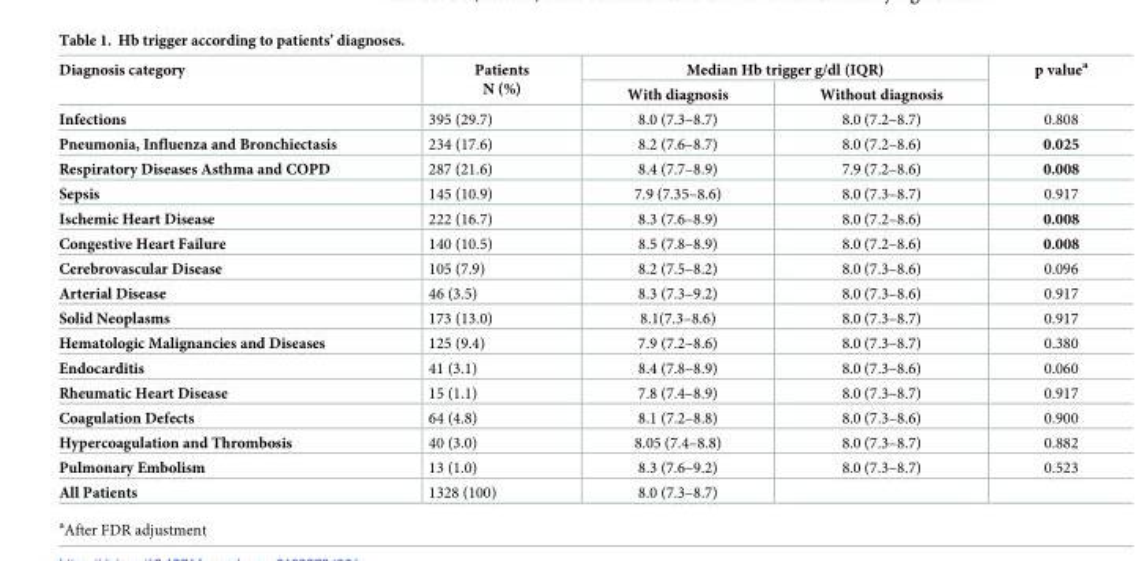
<table><thead><tr><td rowspan="2">Diagnosis category</td><td rowspan="2">Patients N (%)</td><td colspan="2">Median Hb trigger g/dl (IQR)</td><td rowspan="2">p value<sup>a</sup></td></tr><tr><td>With diagnosis</td><td>Without diagnosis</td></tr></thead><tbody><tr><td>Infections</td><td>395 (29.7)</td><td>8.0 (7.3–8.7)</td><td>8.0 (7.2–8.7)</td><td>0.808</td></tr><tr><td>Pneumonia, Influenza and Bronchiectasis</td><td>234 (17.6)</td><td>8.2 (7.6–8.7)</td><td>8.0 (7.2–8.6)</td><td>0.025</td></tr><tr><td>Respiratory Diseases Asthma and COPD</td><td>287 (21.6)</td><td>8.4 (7.7–8.9)</td><td>7.9 (7.2–8.6)</td><td>0.008</td></tr><tr><td>Sepsis</td><td>145 (10.9)</td><td>7.9 (7.35–8.6)</td><td>8.0 (7.3–8.7)</td><td>0.917</td></tr><tr><td>Ischemic Heart Disease</td><td>222 (16.7)</td><td>8.3 (7.6–8.9)</td><td>8.0 (7.2–8.6)</td><td>0.008</td></tr><tr><td>Congestive Heart Failure</td><td>140 (10.5)</td><td>8.5 (7.8–8.9)</td><td>8.0 (7.2–8.6)</td><td>0.008</td></tr><tr><td>Cerebrovascular Disease</td><td>105 (7.9)</td><td>8.2 (7.5–8.2)</td><td>8.0 (7.3–8.6)</td><td>0.096</td></tr><tr><td>Arterial Disease</td><td>46 (3.5)</td><td>8.3 (7.3–9.2)</td><td>8.0 (7.3–8.6)</td><td>0.917</td></tr><tr><td>Solid Neoplasms</td><td>173 (13.0)</td><td>8.1(7.3–8.6)</td><td>8.0 (7.3–8.7)</td><td>0.917</td></tr><tr><td>Hematologic Malignancies and Diseases</td><td>125 (9.4)</td><td>7.9 (7.2–8.6)</td><td>8.0 (7.3–8.7)</td><td>0.380</td></tr><tr><td>Endocarditis</td><td>41 (3.1)</td><td>8.4 (7.8–8.9)</td><td>8.0 (7.3–8.6)</td><td>0.060</td></tr><tr><td>Rheumatic Heart Disease</td><td>15 (1.1)</td><td>7.8 (7.4–8.9)</td><td>8.0 (7.3–8.7)</td><td>0.917</td></tr><tr><td>Coagulation Defects</td><td>64 (4.8)</td><td>8.1 (7.2–8.8)</td><td>8.0 (7.3–8.6)</td><td>0.900</td></tr><tr><td>Hypercoagulation and Thrombosis</td><td>40 (3.0)</td><td>8.05 (7.4–8.8)</td><td>8.0 (7.3–8.7)</td><td>0.882</td></tr><tr><td>Pulmonary Embolism</td><td>13 (1.0)</td><td>8.3 (7.6–9.2)</td><td>8.0 (7.3–8.7)</td><td>0.523</td></tr><tr><td>All Patients</td><td>1328 (100)</td><td>8.0 (7.3–8.7)</td><td></td><td></td></tr></tbody></table>